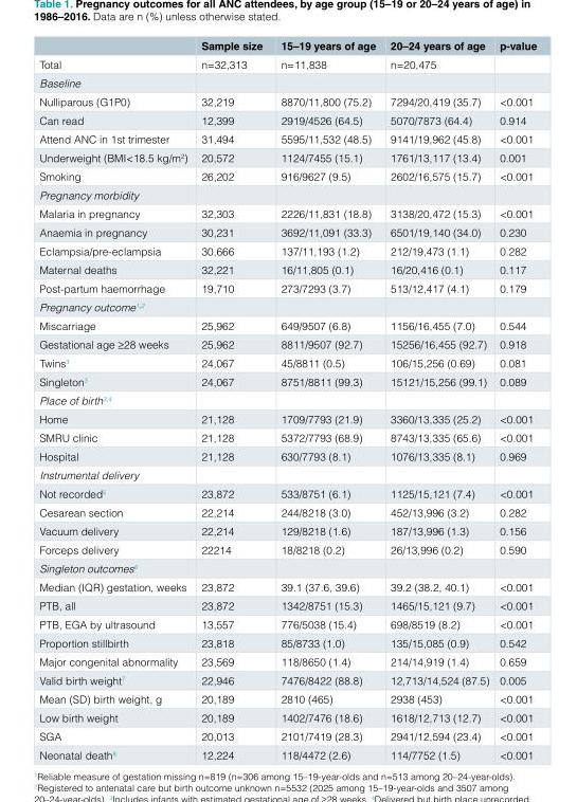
<table><thead><tr><td></td><td>Sample size</td><td>15–19 years of age</td><td>20–24 years of age</td><td>p-value</td></tr></thead><tbody><tr><td>Total</td><td>n=32,313</td><td>n=11,838</td><td>n=20,475</td><td></td></tr><tr><td colspan="5">Baseline</td></tr><tr><td>Nulliparous (G1P0)</td><td>32,219</td><td>8870/11,800 (75.2)</td><td>7294/20,419 (35.7)</td><td>&lt;0.001</td></tr><tr><td>Can read</td><td>12,399</td><td>2919/4526 (64.5)</td><td>5070/7873 (64.4)</td><td>0.914</td></tr><tr><td>Attend ANC in 1st trimester</td><td>31,494</td><td>5595/11,532 (48.5)</td><td>9141/19,962 (45.8)</td><td>&lt;0.001</td></tr><tr><td>Underweight (BMI&lt;18.5 kg/m<sup>2</sup>)</td><td>20,572</td><td>1124/7455 (15.1)</td><td>1761/13,117 (13.4)</td><td>0.001</td></tr><tr><td>Smoking</td><td>26,202</td><td>916/9627 (9.5)</td><td>2602/16,575 (15.7)</td><td>&lt;0.001</td></tr><tr><td colspan="5">Pregnancy morbidity</td></tr><tr><td>Malaria in pregnancy</td><td>32,303</td><td>2226/11,831 (18.8)</td><td>3138/20,472 (15.3)</td><td>&lt;0.001</td></tr><tr><td>Anaemia in pregnancy</td><td>30,231</td><td>3692/11,091 (33.3)</td><td>6501/19,140 (34.0)</td><td>0.230</td></tr><tr><td>Eclampsia/pre-eclampsia</td><td>30,666</td><td>137/11,193 (1.2)</td><td>212/19,473 (1.1)</td><td>0.282</td></tr><tr><td>Maternal deaths</td><td>32,221</td><td>16/11,805 (0.1)</td><td>16/20,416 (0.1)</td><td>0.117</td></tr><tr><td>Post-partum haemorrhage</td><td>19,710</td><td>273/7293 (3.7)</td><td>513/12,417 (4.1)</td><td>0.179</td></tr><tr><td colspan="5">Pregnancy outcome<sup>1,2</sup></td></tr><tr><td>Miscarriage</td><td>25,962</td><td>649/9507 (6.8)</td><td>1156/16,455 (7.0)</td><td>0.544</td></tr><tr><td>Gestational age ≥28 weeks</td><td>25,962</td><td>8811/9507 (92.7)</td><td>15256/16,455 (92.7)</td><td>0.918</td></tr><tr><td>Twins<sup>3</sup></td><td>24,067</td><td>45/8811 (0.5)</td><td>106/15,256 (0.69)</td><td>0.081</td></tr><tr><td>Singleton<sup>3</sup></td><td>24,067</td><td>8751/8811 (99.3)</td><td>15121/15,256 (99.1)</td><td>0.089</td></tr><tr><td colspan="5">Place of birth<sup>3,4</sup></td></tr><tr><td>Home</td><td>21,128</td><td>1709/7793 (21.9)</td><td>3360/13,335 (25.2)</td><td>&lt;0.001</td></tr><tr><td>SMRU clinic</td><td>21,128</td><td>5372/7793 (68.9)</td><td>8743/13,335 (65.6)</td><td>&lt;0.001</td></tr><tr><td>Hospital</td><td>21,128</td><td>630/7793 (8.1)</td><td>1076/13,335 (8.1)</td><td>0.969</td></tr><tr><td colspan="5">Instrumental delivery</td></tr><tr><td>Not recorded<sup>5</sup></td><td>23,872</td><td>533/8751 (6.1)</td><td>1125/15,121 (7.4)</td><td>&lt;0.001</td></tr><tr><td>Cesarean section</td><td>22,214</td><td>244/8218 (3.0)</td><td>452/13,996 (3.2)</td><td>0.282</td></tr><tr><td>Vacuum delivery</td><td>22,214</td><td>129/8218 (1.6)</td><td>187/13,996 (1.3)</td><td>0.156</td></tr><tr><td>Forceps delivery</td><td>22214</td><td>18/8218 (0.2)</td><td>26/13,996 (0.2)</td><td>0.590</td></tr><tr><td colspan="5">Singleton outcomes<sup>6</sup></td></tr><tr><td>Median (IQR) gestation, weeks</td><td>23,872</td><td>39.1 (37.6, 39.6)</td><td>39.2 (38.2, 40.1)</td><td>&lt;0.001</td></tr><tr><td>PTB, all</td><td>23,872</td><td>1342/8751 (15.3)</td><td>1465/15,121 (9.7)</td><td>&lt;0.001</td></tr><tr><td>PTB, EGA by ultrasound</td><td>13,557</td><td>776/5038 (15.4)</td><td>698/8519 (8.2)</td><td>&lt;0.001</td></tr><tr><td>Proportion stillbirth</td><td>23,818</td><td>85/8733 (1.0)</td><td>135/15,085 (0.9)</td><td>0.542</td></tr><tr><td>Major congenital abnormality</td><td>23,569</td><td>118/8650 (1.4)</td><td>214/14,919 (1.4)</td><td>0.659</td></tr><tr><td>Valid birth weight<sup>7</sup></td><td>22,946</td><td>7476/8422 (88.8)</td><td>12,713/14,524 (87.5)</td><td>0.005</td></tr><tr><td>Mean (SD) birth weight, g</td><td>20,189</td><td>2810 (465)</td><td>2938 (453)</td><td>&lt;0.001</td></tr><tr><td>Low birth weight</td><td>20,189</td><td>1402/7476 (18.6)</td><td>1618/12,713 (12.7)</td><td>&lt;0.001</td></tr><tr><td>SGA</td><td>20,013</td><td>2101/7419 (28.3)</td><td>2941/12,594 (23.4)</td><td>&lt;0.001</td></tr><tr><td>Neonatal death<sup>8</sup></td><td>12,224</td><td>118/4472 (2.6)</td><td>114/7752 (1.5)</td><td>&lt;0.001</td></tr></tbody></table>